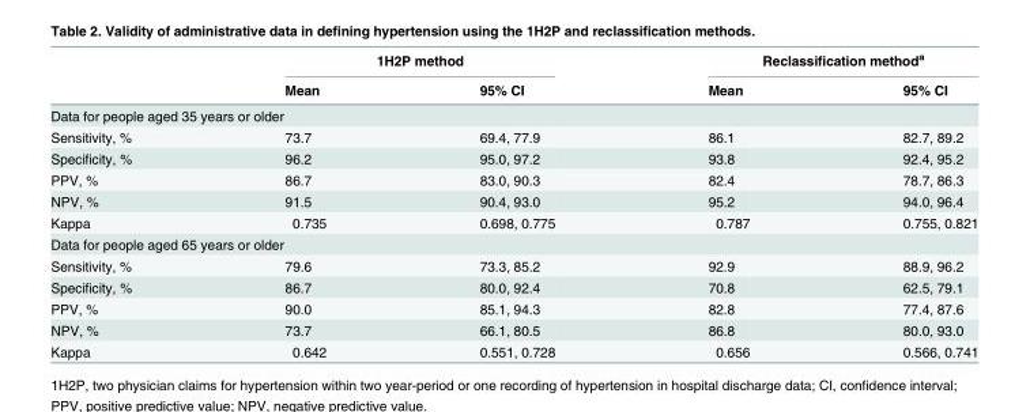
<table><thead><tr><td rowspan="2"></td><td colspan="2">1H2P method</td><td colspan="2">Reclassification method<sup>a</sup></td></tr><tr><td>Mean</td><td>95% CI</td><td>Mean</td><td>95% CI</td></tr></thead><tbody><tr><td colspan="5">Data for people aged 35 years or older</td></tr><tr><td>Sensitivity, %</td><td>73.7</td><td>69.4, 77.9</td><td>86.1</td><td>82.7, 89.2</td></tr><tr><td>Specificity, %</td><td>96.2</td><td>95.0, 97.2</td><td>93.8</td><td>92.4, 95.2</td></tr><tr><td>PPV, %</td><td>86.7</td><td>83.0, 90.3</td><td>82.4</td><td>78.7, 86.3</td></tr><tr><td>NPV, %</td><td>91.5</td><td>90.4, 93.0</td><td>95.2</td><td>94.0, 96.4</td></tr><tr><td>Kappa</td><td>0.735</td><td>0.698, 0.775</td><td>0.787</td><td>0.755, 0.821</td></tr><tr><td colspan="5">Data for people aged 65 years or older</td></tr><tr><td>Sensitivity, %</td><td>79.6</td><td>73.3, 85.2</td><td>92.9</td><td>88.9, 96.2</td></tr><tr><td>Specificity, %</td><td>86.7</td><td>80.0, 92.4</td><td>70.8</td><td>62.5, 79.1</td></tr><tr><td>PPV, %</td><td>90.0</td><td>85.1, 94.3</td><td>82.8</td><td>77.4, 87.6</td></tr><tr><td>NPV, %</td><td>73.7</td><td>66.1, 80.5</td><td>86.8</td><td>80.0, 93.0</td></tr><tr><td>Kappa</td><td>0.642</td><td>0.551, 0.728</td><td>0.656</td><td>0.566, 0.741</td></tr></tbody></table>